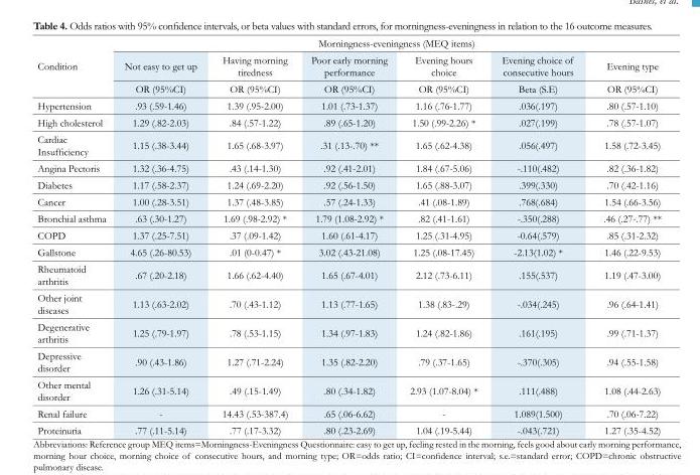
<table><thead><tr><td rowspan="3">Condition</td><td colspan="6">Morningness-eveningness (MEQ items)</td></tr><tr><td rowspan="2">Not easy to get up OR (95%CI)</td><td rowspan="2">Having morning tiredness OR (95%CI)</td><td rowspan="2">Poor early morning performance OR (95%CI)</td><td rowspan="2">Evening hours choice OR (95%CI)</td><td rowspan="2">Evening choice of consecutive hours Beta (S.E)</td><td rowspan="2">Evening type OR (95%CI)</td></tr><tr></tr></thead><tbody><tr><td>Hypertension</td><td>.93 (.59-1.46)</td><td>1.39 (.95-2.00)</td><td>1.01 (.73-1.37)</td><td>1.16 (.76-1.77)</td><td>.036(.197)</td><td>.80 (.57-1.10)</td></tr><tr><td>High cholesterol</td><td>1.29 (.82-2.03)</td><td>.84 (.57-1.22)</td><td>.89 (.65-1.20)</td><td>1.50 (.99-2.26) *</td><td>.027(.199)</td><td>.78 (.57-1.07)</td></tr><tr><td>Cardiac Insufficiency</td><td>1.15 (.38-3.44)</td><td>1.65 (.68-3.97)</td><td>.31 (.13-.70) **</td><td>1.65 (.62-4.38)</td><td>.056(.497)</td><td>1.58 (.72-3.45)</td></tr><tr><td>Angina Pectoris</td><td>1.32 (.36-4.75)</td><td>.43 (.14-1.30)</td><td>.92 (.41-2.01)</td><td>1.84 (.67-5.06)</td><td>-.110(.482)</td><td>.82 (.36-1.82)</td></tr><tr><td>Diabetes</td><td>1.17 (.58-2.37)</td><td>1.24 (.69-2.20)</td><td>.92 (.56-1.50)</td><td>1.65 (.88-3.07)</td><td>.399(.330)</td><td>.70 (.42-1.16)</td></tr><tr><td>Cancer</td><td>1.00 (.28-3.51)</td><td>1.37 (.48-3.85)</td><td>.57 (.24-1.33)</td><td>.41 (.08-1.89)</td><td>.768(.684)</td><td>1.54 (.66-3.56)</td></tr><tr><td>Bronchial asthma</td><td>.63 (.30-1.27)</td><td>1.69 (.98-2.92) *</td><td>1.79 (1.08-2.92) *</td><td>.82 (.41-1.61)</td><td>-.350(.288)</td><td>.46 (.27-.77) **</td></tr><tr><td>COPD</td><td>1.37 (.25-7.51)</td><td>.37 (.09-1.42)</td><td>1.60 (.61-4.17)</td><td>1.25 (.31-4.95)</td><td>-0.64(.579)</td><td>.85 (.31-2.32)</td></tr><tr><td>Gallstone</td><td>4.65 (.26-80.53)</td><td>.01 (0-0.47) *</td><td>3.02 (.43-21.08)</td><td>1.25 (.08-17.45)</td><td>-2.13(1.02) *</td><td>1.46 (.22-9.53)</td></tr><tr><td>Rheumatoid arthritis</td><td>.67 (.20-2.18)</td><td>1.66 (.62-4.40)</td><td>1.65 (.67-4.01)</td><td>2.12 (.73-6.11)</td><td>.155(.537)</td><td>1.19 (.47-3.00)</td></tr><tr><td>Other joint diseases</td><td>1.13 (.63-2.02)</td><td>.70 (.43-1.12)</td><td>1.13 (.77-1.65)</td><td>1.38 (.83-.29)</td><td>-.034(.245)</td><td>.96 (.64-1.41)</td></tr><tr><td>Degenerative arthritis</td><td>1.25 (.79-1.97)</td><td>.78 (.53-1.15)</td><td>1.34 (.97-1.83)</td><td>1.24 (.82-1.86)</td><td>.161(.195)</td><td>.99 (.71-1.37)</td></tr><tr><td>Depressive disorder</td><td>.90 (.43-1.86)</td><td>1.27 (.71-2.24)</td><td>1.35 (.82-2.20)</td><td>.79 (.37-1.65)</td><td>-.370(.305)</td><td>.94 (.55-1.58)</td></tr><tr><td>Other mental disorder</td><td>1.26 (.31-5.14)</td><td>.49 (.15-1.49)</td><td>.80 (.34-1.82)</td><td>2.93 (1.07-8.04) *</td><td>.111(.488)</td><td>1.08 (.44-2.63)</td></tr><tr><td>Renal failure</td><td>-</td><td>14.43 (.53-387.4)</td><td>.65 (.06-6.62)</td><td>-</td><td>1.089(1.500)</td><td>.70 (.06-7.22)</td></tr><tr><td>Proteinuria</td><td>.77 (.11-5.14)</td><td>.77 (.17-3.32)</td><td>.80 (.23-2.69)</td><td>1.04 (.19-5.44)</td><td>-.043(.721)</td><td>1.27 (.35-4.52)</td></tr></tbody></table>